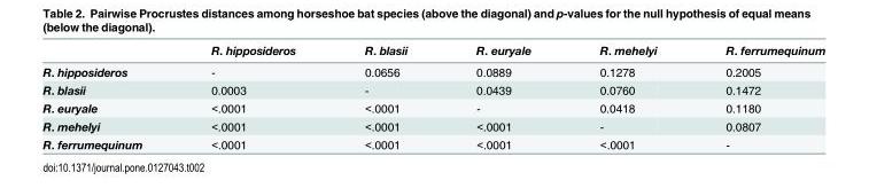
<table><thead><tr><td></td><td>R. hipposideros</td><td>R. blasii</td><td>R. euryale</td><td>R. mehelyi</td><td>R. ferrumequinum</td></tr></thead><tbody><tr><td>R. hipposideros</td><td>-</td><td>0.0656</td><td>0.0889</td><td>0.1278</td><td>0.2005</td></tr><tr><td>R. blasii</td><td>0.0003</td><td>-</td><td>0.0439</td><td>0.0760</td><td>0.1472</td></tr><tr><td>R. euryale</td><td>&lt;.0001</td><td>&lt;.0001</td><td>-</td><td>0.0418</td><td>0.1180</td></tr><tr><td>R. mehelyi</td><td>&lt;.0001</td><td>&lt;.0001</td><td>&lt;.0001</td><td>-</td><td>0.0807</td></tr><tr><td>R. ferrumequinum</td><td>&lt;.0001</td><td>&lt;.0001</td><td>&lt;.0001</td><td>&lt;.0001</td><td>-</td></tr></tbody></table>